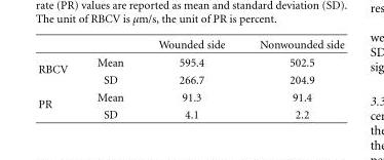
<table><thead><tr><td></td><td></td><td>Wounded side</td><td>Nonwounded side</td></tr></thead><tbody><tr><td rowspan="2">RBCV</td><td>Mean</td><td>595.4</td><td>502.5</td></tr><tr><td>SD</td><td>266.7</td><td>204.9</td></tr><tr><td rowspan="2">PR</td><td>Mean</td><td>91.3</td><td>91.4</td></tr><tr><td>SD</td><td>4.1</td><td>2.2</td></tr></tbody></table>